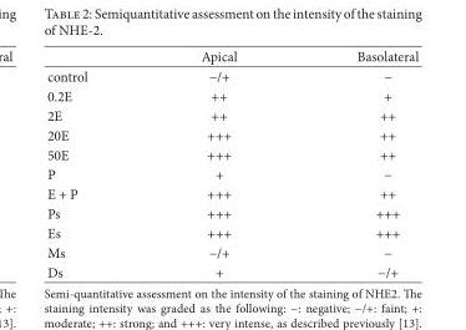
<table><thead><tr><td></td><td>Apical</td><td>Basolateral</td></tr></thead><tbody><tr><td>control</td><td>−/+</td><td>−</td></tr><tr><td>0.2E</td><td>++</td><td>+</td></tr><tr><td>2E</td><td>++</td><td>++</td></tr><tr><td>20E</td><td>+++</td><td>++</td></tr><tr><td>50E</td><td>+++</td><td>++</td></tr><tr><td>P</td><td>+</td><td>−</td></tr><tr><td>E + P</td><td>+++</td><td>++</td></tr><tr><td>Ps</td><td>+++</td><td>+++</td></tr><tr><td>Es</td><td>+++</td><td>+++</td></tr><tr><td>Ms</td><td>−/+</td><td>−</td></tr><tr><td>Ds</td><td>+</td><td>−/+</td></tr></tbody></table>